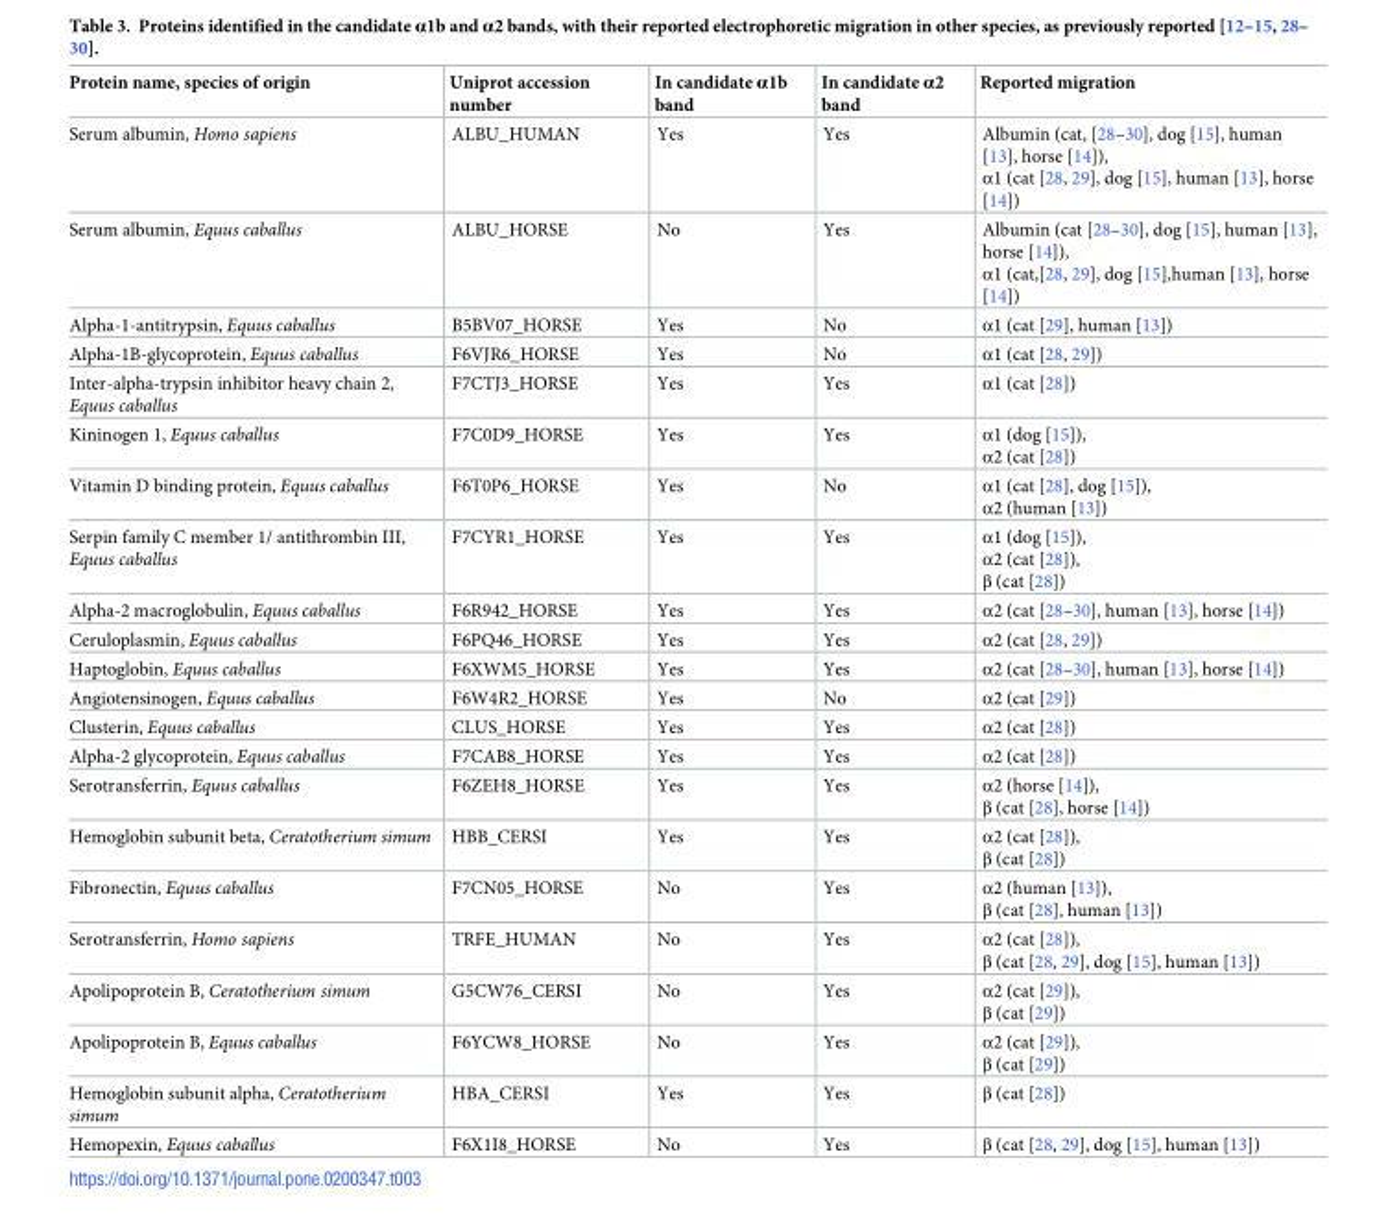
<table><thead><tr><td>Protein name, species of origin</td><td>Uniprot accession number</td><td>In candidate α1b band</td><td>In candidate α2 band</td><td>Reported migration</td></tr></thead><tbody><tr><td>Serum albumin, Homo sapiens</td><td>ALBU_HUMAN</td><td>Yes</td><td>Yes</td><td>Albumin (cat, [28–30], dog [15], human [13], horse [14]), α1 (cat [28, 29], dog [15], human [13], horse [14])</td></tr><tr><td>Serum albumin, Equus caballus</td><td>ALBU_HORSE</td><td>No</td><td>Yes</td><td>Albumin (cat [28–30], dog [15], human [13], horse [14]), α1 (cat,[28, 29], dog [15],human [13], horse [14])</td></tr><tr><td>Alpha-1-antitrypsin, Equus caballus</td><td>B5BV07_HORSE</td><td>Yes</td><td>No</td><td>α1 (cat [29], human [13])</td></tr><tr><td>Alpha-1B-glycoprotein, Equus caballus</td><td>F6VJR6_HORSE</td><td>Yes</td><td>No</td><td>α1 (cat [28, 29])</td></tr><tr><td>Inter-alpha-trypsin inhibitor heavy chain 2, Equus caballus</td><td>F7CTJ3_HORSE</td><td>Yes</td><td>Yes</td><td>α1 (cat [28])</td></tr><tr><td>Kininogen 1, Equus caballus</td><td>F7C0D9_HORSE</td><td>Yes</td><td>Yes</td><td>α1 (dog [15]), α2 (cat [28])</td></tr><tr><td>Vitamin D binding protein, Equus caballus</td><td>F6T0P6_HORSE</td><td>Yes</td><td>No</td><td>α1 (cat [28], dog [15]), α2 (human [13])</td></tr><tr><td>Serpin family C member 1/ antithrombin III, Equus caballus</td><td>F7CYR1_HORSE</td><td>Yes</td><td>Yes</td><td>α1 (dog [15]), α2 (cat [28]), β (cat [28])</td></tr><tr><td>Alpha-2 macroglobulin, Equus caballus</td><td>F6R942_HORSE</td><td>Yes</td><td>Yes</td><td>α2 (cat [28–30], human [13], horse [14])</td></tr><tr><td>Ceruloplasmin, Equus caballus</td><td>F6PQ46_HORSE</td><td>Yes</td><td>Yes</td><td>α2 (cat [28, 29])</td></tr><tr><td>Haptoglobin, Equus caballus</td><td>F6XWM5_HORSE</td><td>Yes</td><td>Yes</td><td>α2 (cat [28–30], human [13], horse [14])</td></tr><tr><td>Angiotensinogen, Equus caballus</td><td>F6W4R2_HORSE</td><td>Yes</td><td>No</td><td>α2 (cat [29])</td></tr><tr><td>Clusterin, Equus caballus</td><td>CLUS_HORSE</td><td>Yes</td><td>Yes</td><td>α2 (cat [28])</td></tr><tr><td>Alpha-2 glycoprotein, Equus caballus</td><td>F7CAB8_HORSE</td><td>Yes</td><td>Yes</td><td>α2 (cat [28])</td></tr><tr><td>Serotransferrin, Equus caballus</td><td>F6ZEH8_HORSE</td><td>Yes</td><td>Yes</td><td>α2 (horse [14]), β (cat [28], horse [14])</td></tr><tr><td>Hemoglobin subunit beta, Ceratotherium simum</td><td>HBB_CERSI</td><td>Yes</td><td>Yes</td><td>α2 (cat [28]), β (cat [28])</td></tr><tr><td>Fibronectin, Equus caballus</td><td>F7CN05_HORSE</td><td>No</td><td>Yes</td><td>α2 (human [13]), β (cat [28], human [13])</td></tr><tr><td>Serotransferrin, Homo sapiens</td><td>TRFE_HUMAN</td><td>No</td><td>Yes</td><td>α2 (cat [28]), β (cat [28, 29], dog [15], human [13])</td></tr><tr><td>Apolipoprotein B, Ceratotherium simum</td><td>G5CW76_CERSI</td><td>No</td><td>Yes</td><td>α2 (cat [29]), β (cat [29])</td></tr><tr><td>Apolipoprotein B, Equus caballus</td><td>F6YCW8_HORSE</td><td>No</td><td>Yes</td><td>α2 (cat [29]), β (cat [29])</td></tr><tr><td>Hemoglobin subunit alpha, Ceratotherium simum</td><td>HBA_CERSI</td><td>Yes</td><td>Yes</td><td>β (cat [28])</td></tr><tr><td>Hemopexin, Equus caballus</td><td>F6X1I8_HORSE</td><td>No</td><td>Yes</td><td>β (cat [28, 29], dog [15], human [13])</td></tr></tbody></table>